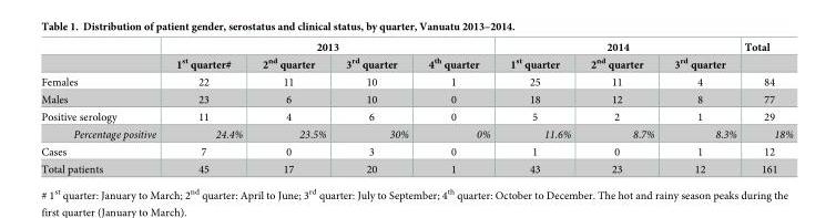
<table><thead><tr><td rowspan="2"></td><td colspan="4">2013</td><td colspan="3">2014</td><td rowspan="2">Total</td></tr><tr><td>1<sup>st</sup> quarter#</td><td>2<sup>nd</sup> quarter</td><td>3<sup>rd</sup> quarter</td><td>4<sup>th</sup> quarter</td><td>1<sup>st</sup> quarter</td><td>2<sup>nd</sup> quarter</td><td>3<sup>rd</sup> quarter</td></tr></thead><tbody><tr><td>Females</td><td>22</td><td>11</td><td>10</td><td>1</td><td>25</td><td>11</td><td>4</td><td>84</td></tr><tr><td>Males</td><td>23</td><td>6</td><td>10</td><td>0</td><td>18</td><td>12</td><td>8</td><td>77</td></tr><tr><td>Positive serology</td><td>11</td><td>4</td><td>6</td><td>0</td><td>5</td><td>2</td><td>1</td><td>29</td></tr><tr><td>Percentage positive</td><td>24.4%</td><td>23.5%</td><td>30%</td><td>0%</td><td>11.6%</td><td>8.7%</td><td>8.3%</td><td>18%</td></tr><tr><td>Cases</td><td>7</td><td>0</td><td>3</td><td>0</td><td>1</td><td>0</td><td>1</td><td>12</td></tr><tr><td>Total patients</td><td>45</td><td>17</td><td>20</td><td>1</td><td>43</td><td>23</td><td>12</td><td>161</td></tr></tbody></table>